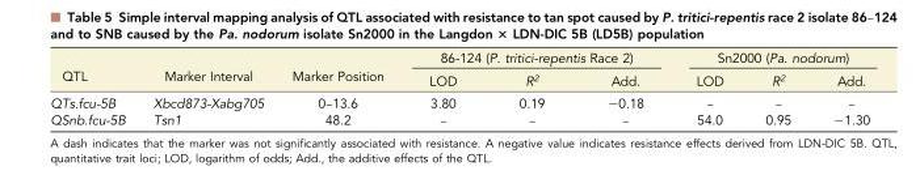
<table><thead><tr><td rowspan="2">QTL</td><td rowspan="2">Marker Interval</td><td rowspan="2">Marker Position</td><td colspan="3">86-124 (P. tritici-repentis Race 2)</td><td colspan="3">Sn2000 (Pa. nodorum)</td></tr><tr><td>LOD</td><td>R<sup>2</sup></td><td>Add.</td><td>LOD</td><td>R<sup>2</sup></td><td>Add.</td></tr></thead><tbody><tr><td>QTs.fcu-5B</td><td>Xbcd873-Xabg705</td><td>0–13.6</td><td>3.80</td><td>0.19</td><td>−0.18</td><td>–</td><td>–</td><td>–</td></tr><tr><td>QSnb.fcu-5B</td><td>Tsn1</td><td>48.2</td><td>–</td><td>–</td><td>–</td><td>54.0</td><td>0.95</td><td>−1.30</td></tr></tbody></table>